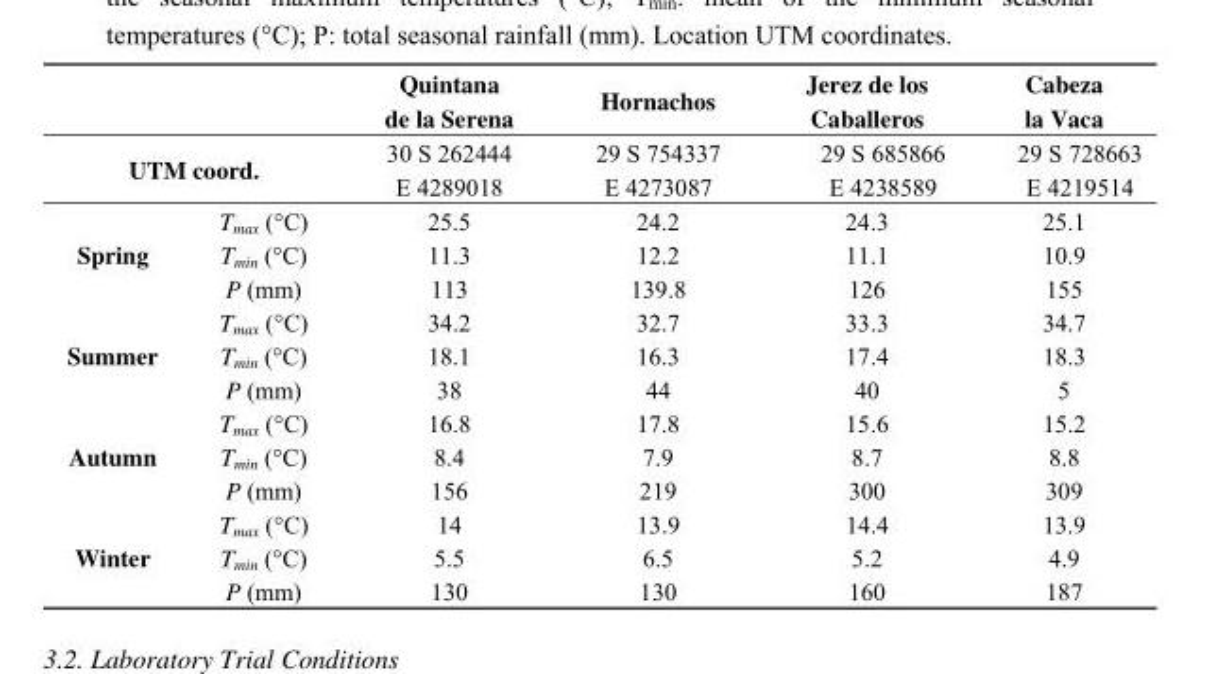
<table><thead><tr><td rowspan="2"></td><td rowspan="2"></td><td rowspan="2">Quintana de la Serena</td><td rowspan="2">Hornachos</td><td rowspan="2">Jerez de los Caballeros</td><td rowspan="2">Cabeza la Vaca</td></tr><tr></tr></thead><tbody><tr><td rowspan="2" colspan="2">UTM coord.</td><td>30 S 262444</td><td>29 S 754337</td><td>29 S 685866</td><td>29 S 728663</td></tr><tr><td>E 4289018</td><td>E 4273087</td><td>E 4238589</td><td>E 4219514</td></tr><tr><td rowspan="3">Spring</td><td>T<sub>max</sub> (°C)</td><td>25.5</td><td>24.2</td><td>24.3</td><td>25.1</td></tr><tr><td>T<sub>min</sub> (°C)</td><td>11.3</td><td>12.2</td><td>11.1</td><td>10.9</td></tr><tr><td>P (mm)</td><td>113</td><td>139.8</td><td>126</td><td>155</td></tr><tr><td rowspan="3">Summer</td><td>T<sub>max</sub> (°C)</td><td>34.2</td><td>32.7</td><td>33.3</td><td>34.7</td></tr><tr><td>T<sub>min</sub> (°C)</td><td>18.1</td><td>16.3</td><td>17.4</td><td>18.3</td></tr><tr><td>P (mm)</td><td>38</td><td>44</td><td>40</td><td>5</td></tr><tr><td rowspan="3">Autumn</td><td>T<sub>max</sub> (°C)</td><td>16.8</td><td>17.8</td><td>15.6</td><td>15.2</td></tr><tr><td>T<sub>min</sub> (°C)</td><td>8.4</td><td>7.9</td><td>8.7</td><td>8.8</td></tr><tr><td>P (mm)</td><td>156</td><td>219</td><td>300</td><td>309</td></tr><tr><td rowspan="3">Winter</td><td>T<sub>max</sub> (°C)</td><td>14</td><td>13.9</td><td>14.4</td><td>13.9</td></tr><tr><td>T<sub>min</sub> (°C)</td><td>5.5</td><td>6.5</td><td>5.2</td><td>4.9</td></tr><tr><td>P (mm)</td><td>130</td><td>130</td><td>160</td><td>187</td></tr></tbody></table>